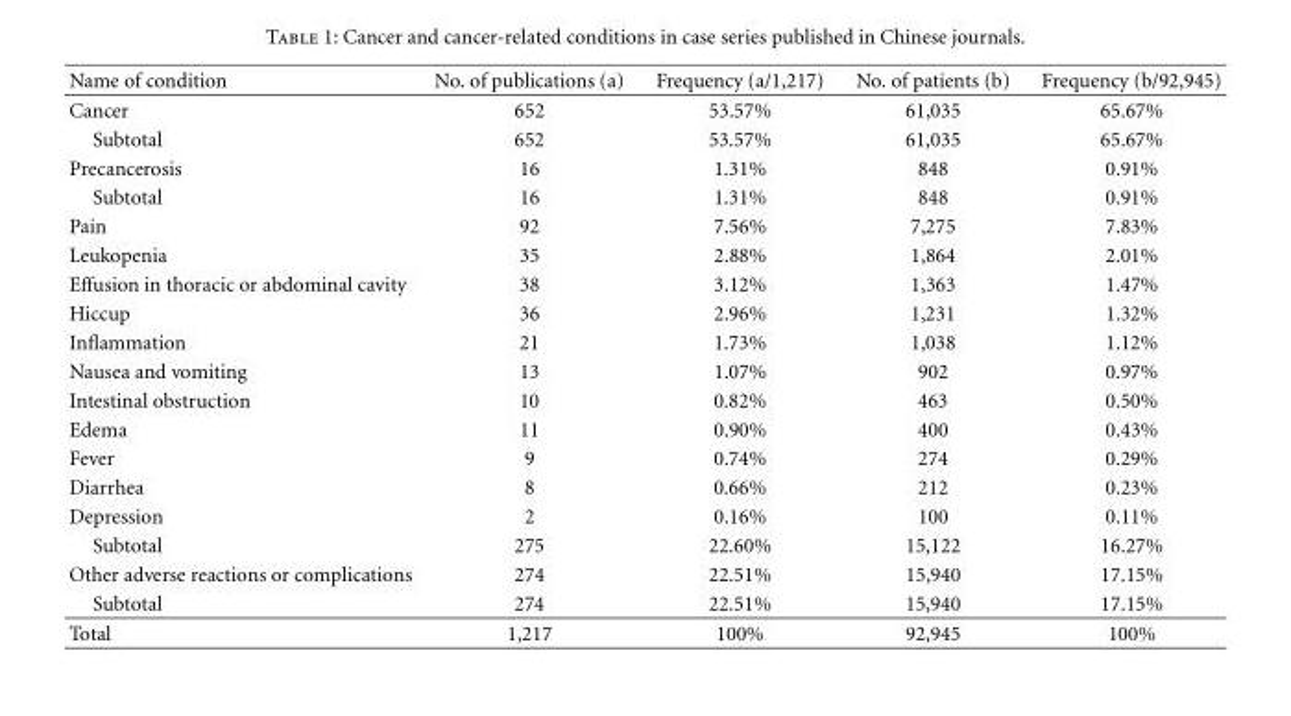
<table><thead><tr><td>Name of condition</td><td>No. of publications (a)</td><td>Frequency (a/1,217)</td><td>No. of patients (b)</td><td>Frequency (b/92,945)</td></tr></thead><tbody><tr><td>Cancer</td><td>652</td><td>53.57%</td><td>61,035</td><td>65.67%</td></tr><tr><td>Subtotal</td><td>652</td><td>53.57%</td><td>61,035</td><td>65.67%</td></tr><tr><td>Precancerosis</td><td>16</td><td>1.31%</td><td>848</td><td>0.91%</td></tr><tr><td>Subtotal</td><td>16</td><td>1.31%</td><td>848</td><td>0.91%</td></tr><tr><td>Pain</td><td>92</td><td>7.56%</td><td>7,275</td><td>7.83%</td></tr><tr><td>Leukopenia</td><td>35</td><td>2.88%</td><td>1,864</td><td>2.01%</td></tr><tr><td>Effusion in thoracic or abdominal cavity</td><td>38</td><td>3.12%</td><td>1,363</td><td>1.47%</td></tr><tr><td>Hiccup</td><td>36</td><td>2.96%</td><td>1,231</td><td>1.32%</td></tr><tr><td>Inflammation</td><td>21</td><td>1.73%</td><td>1,038</td><td>1.12%</td></tr><tr><td>Nausea and vomiting</td><td>13</td><td>1.07%</td><td>902</td><td>0.97%</td></tr><tr><td>Intestinal obstruction</td><td>10</td><td>0.82%</td><td>463</td><td>0.50%</td></tr><tr><td>Edema</td><td>11</td><td>0.90%</td><td>400</td><td>0.43%</td></tr><tr><td>Fever</td><td>9</td><td>0.74%</td><td>274</td><td>0.29%</td></tr><tr><td>Diarrhea</td><td>8</td><td>0.66%</td><td>212</td><td>0.23%</td></tr><tr><td>Depression</td><td>2</td><td>0.16%</td><td>100</td><td>0.11%</td></tr><tr><td>Subtotal</td><td>275</td><td>22.60%</td><td>15,122</td><td>16.27%</td></tr><tr><td>Other adverse reactions or complications</td><td>274</td><td>22.51%</td><td>15,940</td><td>17.15%</td></tr><tr><td>Subtotal</td><td>274</td><td>22.51%</td><td>15,940</td><td>17.15%</td></tr><tr><td>Total</td><td>1,217</td><td>100%</td><td>92,945</td><td>100%</td></tr></tbody></table>